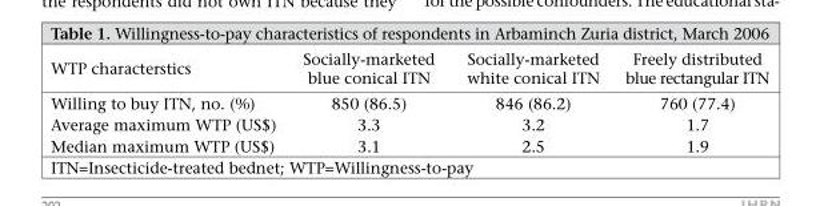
<table><thead><tr><td>WTP characterstics</td><td>Socially-marketed blue conical ITN</td><td>Socially-marketed white conical ITN</td><td>Freely distributed blue rectangular ITN</td></tr></thead><tbody><tr><td>Willing to buy ITN, no. (%)</td><td>850 (86.5)</td><td>846 (86.2)</td><td>760 (77.4)</td></tr><tr><td>Average maximum WTP (US$)</td><td>3.3</td><td>3.2</td><td>1.7</td></tr><tr><td>Median maximum WTP (US$)</td><td>3.1</td><td>2.5</td><td>1.9</td></tr></tbody></table>